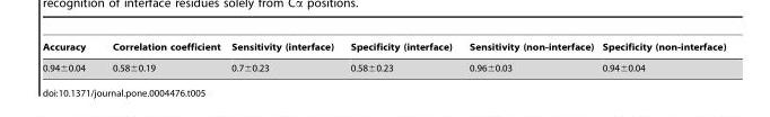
<table><thead><tr><td>Accuracy</td><td>Correlation coefficient</td><td>Sensitivity (interface)</td><td>Specificity (interface)</td><td>Sensitivity (non-interface)</td><td>Specificity (non-interface)</td></tr></thead><tbody><tr><td>0.94±0.04</td><td>0.58±0.19</td><td>0.7±0.23</td><td>0.58±0.23</td><td>0.96±0.03</td><td>0.94±0.04</td></tr></tbody></table>